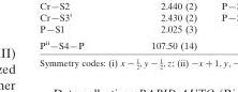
<table><tbody><tr><td>P<sup>ii</sup>—S4—P</td><td>107.50 (14)</td></tr></tbody></table>